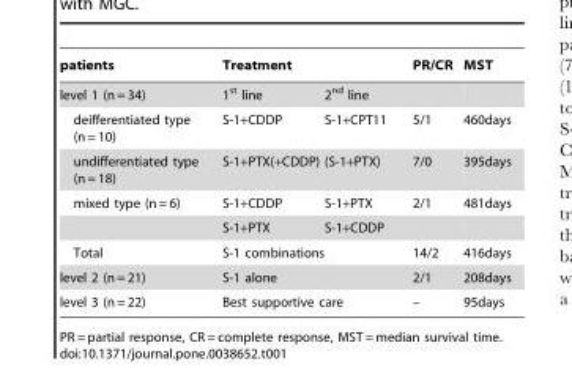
<table><thead><tr><td rowspan="2">patients level 1 (n = 34)</td><td colspan="2">Treatment</td><td rowspan="2">PR/CR</td><td rowspan="2">MST</td></tr><tr><td>1<sup>st</sup> line</td><td>2<sup>nd</sup> line</td></tr></thead><tbody><tr><td>deifferentiated type (n = 10)</td><td>S-1+CDDP</td><td>S-1+CPT11</td><td>5/1</td><td>460days</td></tr><tr><td>undifferentiated type (n = 18)</td><td>S-1+PTX(+CDDP)</td><td>(S-1+PTX)</td><td>7/0</td><td>395days</td></tr><tr><td rowspan="2">mixed type (n = 6)</td><td>S-1+CDDP</td><td>S-1+PTX</td><td>2/1</td><td>481days</td></tr><tr><td>S-1+PTX</td><td>S-1+CDDP</td><td></td><td></td></tr><tr><td>Total</td><td colspan="2">S-1 combinations</td><td>14/2</td><td>416days</td></tr><tr><td>level 2 (n = 21)</td><td colspan="2">S-1 alone</td><td>2/1</td><td>208days</td></tr><tr><td>level 3 (n = 22)</td><td colspan="2">Best supportive care</td><td>–</td><td>95days</td></tr></tbody></table>